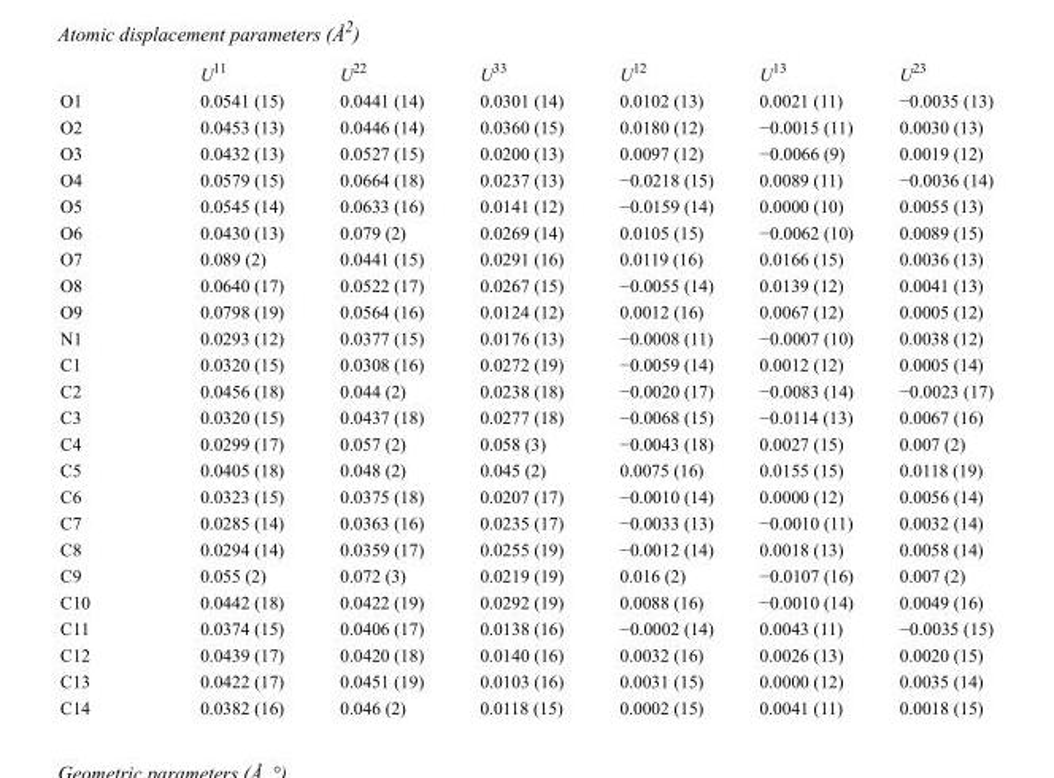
<table><thead><tr><td></td><td>U<sup>11</sup></td><td>U<sup>22</sup></td><td>U<sup>33</sup></td><td>U<sup>12</sup></td><td>U<sup>13</sup></td><td>U<sup>23</sup></td></tr></thead><tbody><tr><td>O1</td><td>0.0541 (15)</td><td>0.0441 (14)</td><td>0.0301 (14)</td><td>0.0102 (13)</td><td>0.0021 (11)</td><td>−0.0035 (13)</td></tr><tr><td>O2</td><td>0.0453 (13)</td><td>0.0446 (14)</td><td>0.0360 (15)</td><td>0.0180 (12)</td><td>−0.0015 (11)</td><td>0.0030 (13)</td></tr><tr><td>O3</td><td>0.0432 (13)</td><td>0.0527 (15)</td><td>0.0200 (13)</td><td>0.0097 (12)</td><td>−0.0066 (9)</td><td>0.0019 (12)</td></tr><tr><td>O4</td><td>0.0579 (15)</td><td>0.0664 (18)</td><td>0.0237 (13)</td><td>−0.0218 (15)</td><td>0.0089 (11)</td><td>−0.0036 (14)</td></tr><tr><td>O5</td><td>0.0545 (14)</td><td>0.0633 (16)</td><td>0.0141 (12)</td><td>−0.0159 (14)</td><td>0.0000 (10)</td><td>0.0055 (13)</td></tr><tr><td>O6</td><td>0.0430 (13)</td><td>0.079 (2)</td><td>0.0269 (14)</td><td>0.0105 (15)</td><td>−0.0062 (10)</td><td>0.0089 (15)</td></tr><tr><td>O7</td><td>0.089 (2)</td><td>0.0441 (15)</td><td>0.0291 (16)</td><td>0.0119 (16)</td><td>0.0166 (15)</td><td>0.0036 (13)</td></tr><tr><td>O8</td><td>0.0640 (17)</td><td>0.0522 (17)</td><td>0.0267 (15)</td><td>−0.0055 (14)</td><td>0.0139 (12)</td><td>0.0041 (13)</td></tr><tr><td>O9</td><td>0.0798 (19)</td><td>0.0564 (16)</td><td>0.0124 (12)</td><td>0.0012 (16)</td><td>0.0067 (12)</td><td>0.0005 (12)</td></tr><tr><td>N1</td><td>0.0293 (12)</td><td>0.0377 (15)</td><td>0.0176 (13)</td><td>−0.0008 (11)</td><td>−0.0007 (10)</td><td>0.0038 (12)</td></tr><tr><td>C1</td><td>0.0320 (15)</td><td>0.0308 (16)</td><td>0.0272 (19)</td><td>−0.0059 (14)</td><td>0.0012 (12)</td><td>0.0005 (14)</td></tr><tr><td>C2</td><td>0.0456 (18)</td><td>0.044 (2)</td><td>0.0238 (18)</td><td>−0.0020 (17)</td><td>−0.0083 (14)</td><td>−0.0023 (17)</td></tr><tr><td>C3</td><td>0.0320 (15)</td><td>0.0437 (18)</td><td>0.0277 (18)</td><td>−0.0068 (15)</td><td>−0.0114 (13)</td><td>0.0067 (16)</td></tr><tr><td>C4</td><td>0.0299 (17)</td><td>0.057 (2)</td><td>0.058 (3)</td><td>−0.0043 (18)</td><td>0.0027 (15)</td><td>0.007 (2)</td></tr><tr><td>C5</td><td>0.0405 (18)</td><td>0.048 (2)</td><td>0.045 (2)</td><td>0.0075 (16)</td><td>0.0155 (15)</td><td>0.0118 (19)</td></tr><tr><td>C6</td><td>0.0323 (15)</td><td>0.0375 (18)</td><td>0.0207 (17)</td><td>−0.0010 (14)</td><td>0.0000 (12)</td><td>0.0056 (14)</td></tr><tr><td>C7</td><td>0.0285 (14)</td><td>0.0363 (16)</td><td>0.0235 (17)</td><td>−0.0033 (13)</td><td>−0.0010 (11)</td><td>0.0032 (14)</td></tr><tr><td>C8</td><td>0.0294 (14)</td><td>0.0359 (17)</td><td>0.0255 (19)</td><td>−0.0012 (14)</td><td>0.0018 (13)</td><td>0.0058 (14)</td></tr><tr><td>C9</td><td>0.055 (2)</td><td>0.072 (3)</td><td>0.0219 (19)</td><td>0.016 (2)</td><td>−0.0107 (16)</td><td>0.007 (2)</td></tr><tr><td>C10</td><td>0.0442 (18)</td><td>0.0422 (19)</td><td>0.0292 (19)</td><td>0.0088 (16)</td><td>−0.0010 (14)</td><td>0.0049 (16)</td></tr><tr><td>C11</td><td>0.0374 (15)</td><td>0.0406 (17)</td><td>0.0138 (16)</td><td>−0.0002 (14)</td><td>0.0043 (11)</td><td>−0.0035 (15)</td></tr><tr><td>C12</td><td>0.0439 (17)</td><td>0.0420 (18)</td><td>0.0140 (16)</td><td>0.0032 (16)</td><td>0.0026 (13)</td><td>0.0020 (15)</td></tr><tr><td>C13</td><td>0.0422 (17)</td><td>0.0451 (19)</td><td>0.0103 (16)</td><td>0.0031 (15)</td><td>0.0000 (12)</td><td>0.0035 (14)</td></tr><tr><td>C14</td><td>0.0382 (16)</td><td>0.046 (2)</td><td>0.0118 (15)</td><td>0.0002 (15)</td><td>0.0041 (11)</td><td>0.0018 (15)</td></tr></tbody></table>